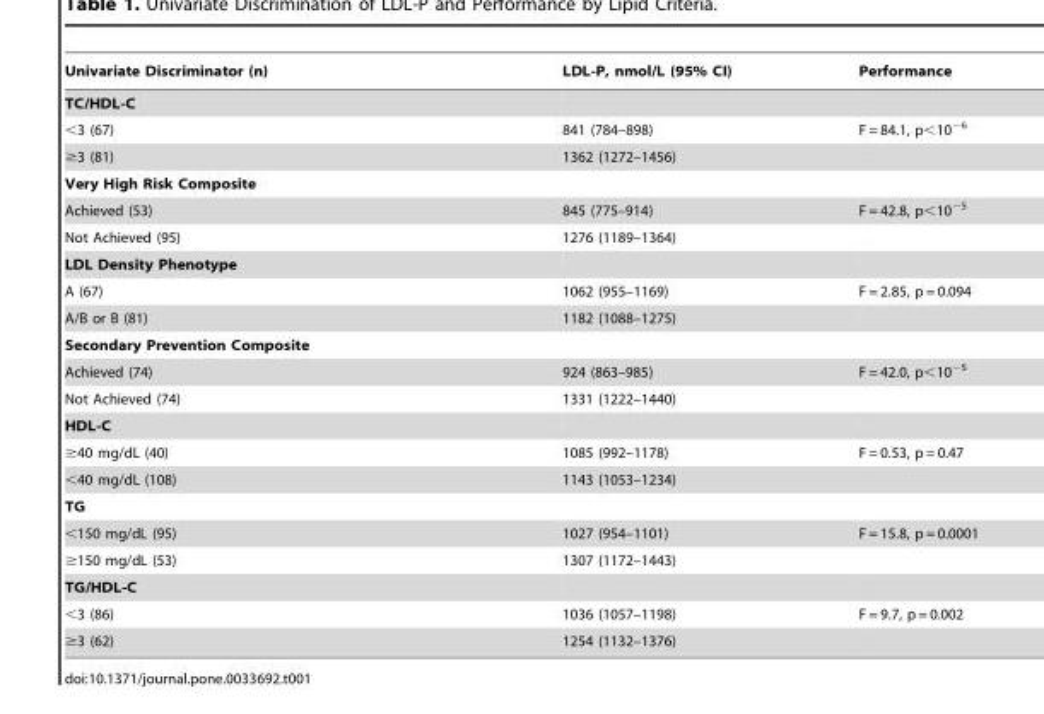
<table><thead><tr><td>Univariate Discriminator (n)</td><td>LDL-P, nmol/L (95% CI)</td><td>Performance</td></tr></thead><tbody><tr><td colspan="3">TC/HDL-C</td></tr><tr><td>&lt;3 (67)</td><td>841 (784–898)</td><td>F = 84.1, p&lt;10<sup>−6</sup></td></tr><tr><td>≥3 (81)</td><td>1362 (1272–1456)</td><td></td></tr><tr><td colspan="3">Very High Risk Composite</td></tr><tr><td>Achieved (53)</td><td>845 (775–914)</td><td>F = 42.8, p&lt;10<sup>−5</sup></td></tr><tr><td>Not Achieved (95)</td><td>1276 (1189–1364)</td><td></td></tr><tr><td colspan="3">LDL Density Phenotype</td></tr><tr><td>A (67)</td><td>1062 (955–1169)</td><td>F = 2.85, p = 0.094</td></tr><tr><td>A/B or B (81)</td><td>1182 (1088–1275)</td><td></td></tr><tr><td colspan="3">Secondary Prevention Composite</td></tr><tr><td>Achieved (74)</td><td>924 (863–985)</td><td>F = 42.0, p&lt;10<sup>−5</sup></td></tr><tr><td>Not Achieved (74)</td><td>1331 (1222–1440)</td><td></td></tr><tr><td colspan="3">HDL-C</td></tr><tr><td>≥40 mg/dL (40)</td><td>1085 (992–1178)</td><td>F = 0.53, p = 0.47</td></tr><tr><td>&lt;40 mg/dL (108)</td><td>1143 (1053–1234)</td><td></td></tr><tr><td colspan="3">TG</td></tr><tr><td>&lt;150 mg/dL (95)</td><td>1027 (954–1101)</td><td>F = 15.8, p = 0.0001</td></tr><tr><td>≥150 mg/dL (53)</td><td>1307 (1172–1443)</td><td></td></tr><tr><td colspan="3">TG/HDL-C</td></tr><tr><td>&lt;3 (86)</td><td>1036 (1057–1198)</td><td>F = 9.7, p = 0.002</td></tr><tr><td>≥3 (62)</td><td>1254 (1132–1376)</td><td></td></tr></tbody></table>